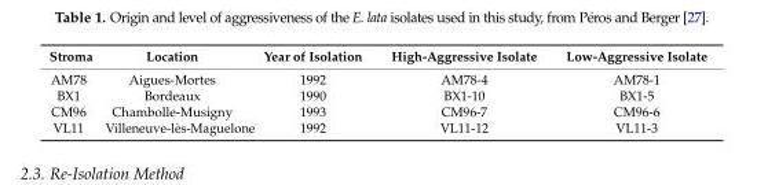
<table><thead><tr><td>Stroma</td><td>Location</td><td>Year of Isolation</td><td>High-Aggressive Isolate</td><td>Low-Aggressive Isolate</td></tr></thead><tbody><tr><td>AM78</td><td>Aigues-Mortes</td><td>1992</td><td>AM78-4</td><td>AM78-1</td></tr><tr><td>BX1</td><td>Bordeaux</td><td>1990</td><td>BX1-10</td><td>BX1-5</td></tr><tr><td>CM96</td><td>Chambolle-Musigny</td><td>1993</td><td>CM96-7</td><td>CM96-6</td></tr><tr><td>VL11</td><td>Villeneuve-lès-Maguelone</td><td>1992</td><td>VL11-12</td><td>VL11-3</td></tr></tbody></table>